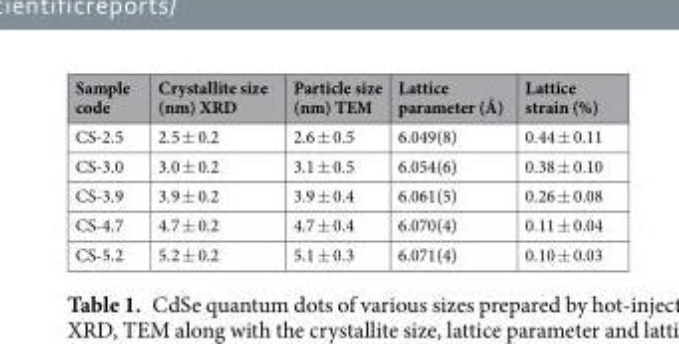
<table><thead><tr><td>Sample code</td><td>Crystallite size (nm) XRD</td><td>Particle size (nm) TEM</td><td>Lattice parameter (Å)</td><td>Lattice strain (%)</td></tr></thead><tbody><tr><td>CS-2.5</td><td>2.5 ± 0.2</td><td>2.6 ± 0.5</td><td>6.049(8)</td><td>0.44 ± 0.11</td></tr><tr><td>CS-3.0</td><td>3.0 ± 0.2</td><td>3.1 ± 0.5</td><td>6.054(6)</td><td>0.38 ± 0.10</td></tr><tr><td>CS-3.9</td><td>3.9 ± 0.2</td><td>3.9 ± 0.4</td><td>6.061(5)</td><td>0.26 ± 0.08</td></tr><tr><td>CS-4.7</td><td>4.7 ± 0.2</td><td>4.7 ± 0.4</td><td>6.070(4)</td><td>0.11 ± 0.04</td></tr><tr><td>CS-5.2</td><td>5.2 ± 0.2</td><td>5.1 ± 0.3</td><td>6.071(4)</td><td>0.10 ± 0.03</td></tr></tbody></table>